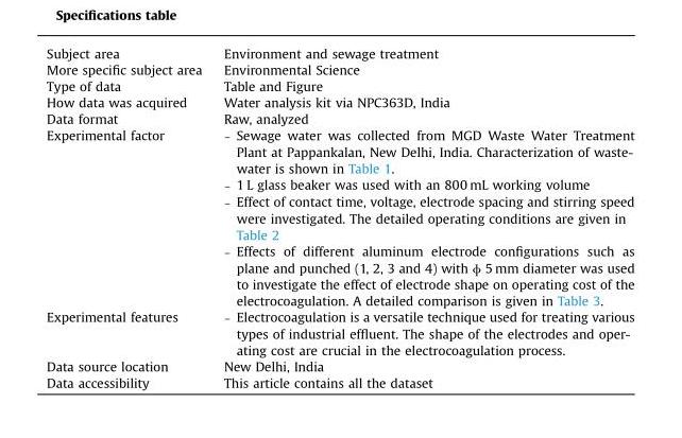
<table><tbody><tr><td>Subject area</td><td>Environment and sewage treatment</td></tr><tr><td>More specific subject area</td><td>Environmental Science</td></tr><tr><td>Type of data</td><td>Table and Figure</td></tr><tr><td>How data was acquired</td><td>Water analysis kit via NPC363D, India</td></tr><tr><td>Data format</td><td>Raw, analyzed</td></tr><tr><td rowspan="4">Experimental factor</td><td>– Sewage water was collected from MGD Waste Water Treatment Plant at Pappankalan, New Delhi, India. Characterization of waste- water is shown in Table 1.</td></tr><tr><td>– 1 L glass beaker was used with an 800 mL working volume</td></tr><tr><td>– Effect of contact time, voltage, electrode spacing and stirring speed were investigated. The detailed operating conditions are given in Table 2</td></tr><tr><td>– Effects of different aluminum electrode configurations such as plane and punched (1, 2, 3 and 4) with ɸ 5 mm diameter was used to investigate the effect of electrode shape on operating cost of the electrocoagulation. A detailed comparison is given in Table 3.</td></tr><tr><td>Experimental features</td><td>– Electrocoagulation is a versatile technique used for treating various types of industrial effluent. The shape of the electrodes and oper- ating cost are crucial in the electrocoagulation process.</td></tr><tr><td>Data source location</td><td>New Delhi, India</td></tr><tr><td>Data accessibility</td><td>This article contains all the dataset</td></tr></tbody></table>